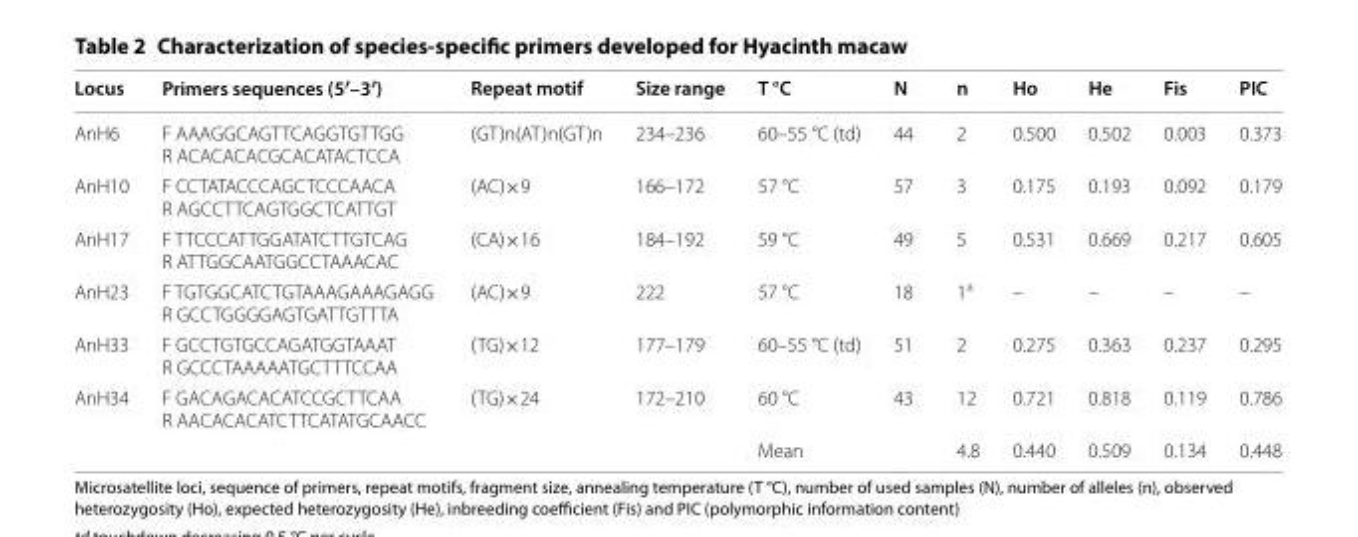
<table><thead><tr><td>Locus</td><td>Primers sequences (5′–3′)</td><td>Repeat motif</td><td>Size range</td><td>T °C</td><td>N</td><td>n</td><td>Ho</td><td>He</td><td>Fis</td><td>PIC</td></tr></thead><tbody><tr><td>AnH6</td><td>F AAAGGCAGTTCAGGTGTTGG R ACACACACGCACATACTCCA</td><td>(GT)n(AT)n(GT)n</td><td>234–236</td><td>60–55 °C (td)</td><td>44</td><td>2</td><td>0.500</td><td>0.502</td><td>0.003</td><td>0.373</td></tr><tr><td>AnH10</td><td>F CCTATACCCAGCTCCCAACA R AGCCTTCAGTGGCTCATTGT</td><td>(AC)×9</td><td>166–172</td><td>57 °C</td><td>57</td><td>3</td><td>0.175</td><td>0.193</td><td>0.092</td><td>0.179</td></tr><tr><td>AnH17</td><td>F TTCCCATTGGATATCTTGTCAG R ATTGGCAATGGCCTAAACAC</td><td>(CA)×16</td><td>184–192</td><td>59 °C</td><td>49</td><td>5</td><td>0.531</td><td>0.669</td><td>0.217</td><td>0.605</td></tr><tr><td>AnH23</td><td>F TGTGGCATCTGTAAAGAAAGAGG R GCCTGGGGAGTGATTGTTTA</td><td>(AC)×9</td><td>222</td><td>57 °C</td><td>18</td><td>1<sup>a</sup></td><td>–</td><td>–</td><td>–</td><td>–</td></tr><tr><td>AnH33</td><td>F GCCTGTGCCAGATGGTAAAT R GCCCTAAAAATGCTTTCCAA</td><td>(TG)×12</td><td>177–179</td><td>60–55 °C (td)</td><td>51</td><td>2</td><td>0.275</td><td>0.363</td><td>0.237</td><td>0.295</td></tr><tr><td rowspan="2">AnH34</td><td>F GACAGACACATCCGCTTCAA R AACACACATCTTCATATGCAACC</td><td>(TG)×24</td><td>172–210</td><td>60 °C</td><td>43</td><td>12</td><td>0.721</td><td>0.818</td><td>0.119</td><td>0.786</td></tr><tr><td></td><td></td><td></td><td>Mean</td><td></td><td>4.8</td><td>0.440</td><td>0.509</td><td>0.134</td><td>0.448</td></tr></tbody></table>